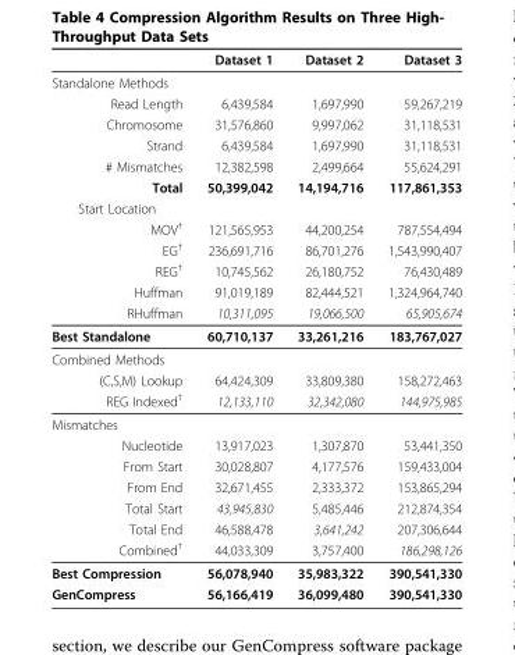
<table><thead><tr><td></td><td>Dataset 1</td><td>Dataset 2</td><td>Dataset 3</td></tr></thead><tbody><tr><td colspan="4">Standalone Methods</td></tr><tr><td>Read Length</td><td>6,439,584</td><td>1,697,990</td><td>59,267,219</td></tr><tr><td>Chromosome</td><td>31,576,860</td><td>9,997,062</td><td>31,118,531</td></tr><tr><td>Strand</td><td>6,439,584</td><td>1,697,990</td><td>31,118,531</td></tr><tr><td># Mismatches</td><td>12,382,598</td><td>2,499,664</td><td>55,624,291</td></tr><tr><td>Total</td><td>50,399,042</td><td>14,194,716</td><td>117,861,353</td></tr><tr><td colspan="4">Start Location</td></tr><tr><td>MOV<sup>†</sup></td><td>121,565,953</td><td>44,200,254</td><td>787,554,494</td></tr><tr><td>EG<sup>†</sup></td><td>236,691,716</td><td>86,701,276</td><td>1,543,990,407</td></tr><tr><td>REG<sup>†</sup></td><td>10,745,562</td><td>26,180,752</td><td>76,430,489</td></tr><tr><td>Huffman</td><td>91,019,189</td><td>82,444,521</td><td>1,324,964,740</td></tr><tr><td>RHuffman</td><td>10,311,095</td><td>19,066,500</td><td>65,905,674</td></tr><tr><td>Best Standalone</td><td>60,710,137</td><td>33,261,216</td><td>183,767,027</td></tr><tr><td colspan="4">Combined Methods</td></tr><tr><td>(C,S,M) Lookup</td><td>64,424,309</td><td>33,809,380</td><td>158,272,463</td></tr><tr><td>REG Indexed<sup>†</sup></td><td>12,133,110</td><td>32,342,080</td><td>144,975,985</td></tr><tr><td colspan="4">Mismatches</td></tr><tr><td>Nucleotide</td><td>13,917,023</td><td>1,307,870</td><td>53,441,350</td></tr><tr><td>From Start</td><td>30,028,807</td><td>4,177,576</td><td>159,433,004</td></tr><tr><td>From End</td><td>32,671,455</td><td>2,333,372</td><td>153,865,294</td></tr><tr><td>Total Start</td><td>43,945,830</td><td>5,485,446</td><td>212,874,354</td></tr><tr><td>Total End</td><td>46,588,478</td><td>3,641,242</td><td>207,306,644</td></tr><tr><td>Combined<sup>†</sup></td><td>44,033,309</td><td>3,757,400</td><td>186,298,126</td></tr><tr><td>Best Compression</td><td>56,078,940</td><td>35,983,322</td><td>390,541,330</td></tr><tr><td>GenCompress</td><td>56,166,419</td><td>36,099,480</td><td>390,541,330</td></tr></tbody></table>